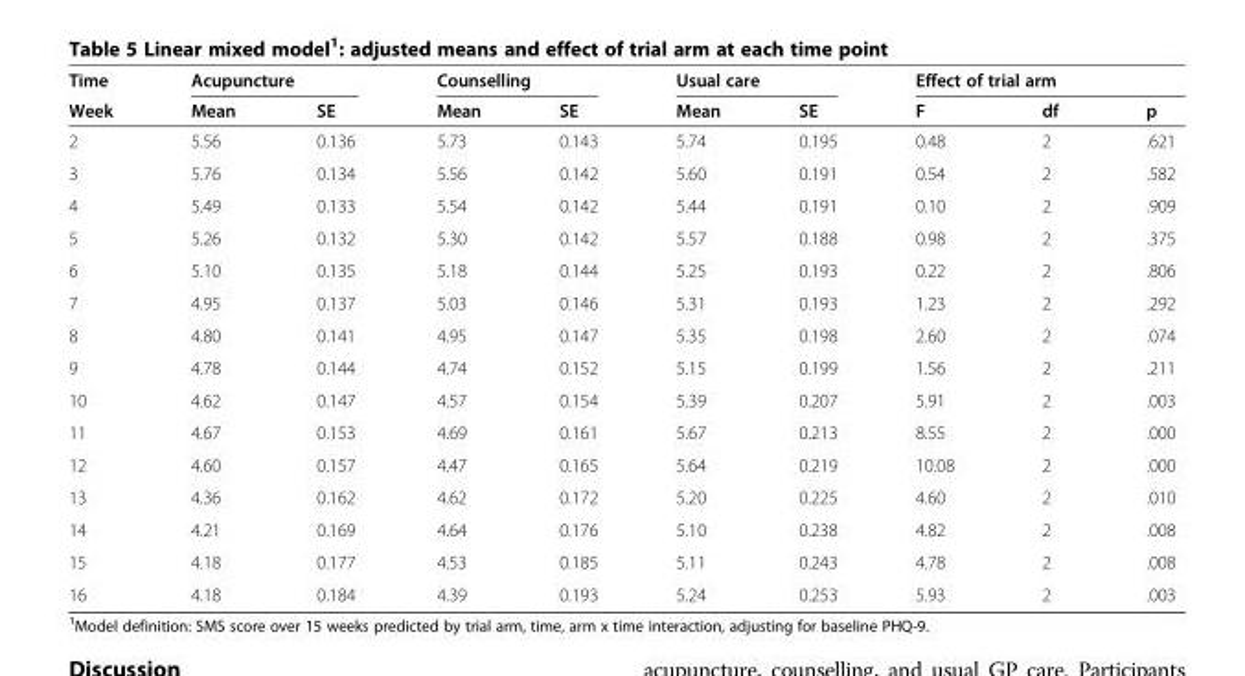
<table><thead><tr><td rowspan="2">Time Week</td><td colspan="2">Acupuncture</td><td colspan="2">Counselling</td><td colspan="2">Usual care</td><td colspan="3">Effect of trial arm</td></tr><tr><td>Mean</td><td>SE</td><td>Mean</td><td>SE</td><td>Mean</td><td>SE</td><td>F</td><td>df</td><td>p</td></tr></thead><tbody><tr><td>2</td><td>5.56</td><td>0.136</td><td>5.73</td><td>0.143</td><td>5.74</td><td>0.195</td><td>0.48</td><td>2</td><td>.621</td></tr><tr><td>3</td><td>5.76</td><td>0.134</td><td>5.56</td><td>0.142</td><td>5.60</td><td>0.191</td><td>0.54</td><td>2</td><td>.582</td></tr><tr><td>4</td><td>5.49</td><td>0.133</td><td>5.54</td><td>0.142</td><td>5.44</td><td>0.191</td><td>0.10</td><td>2</td><td>.909</td></tr><tr><td>5</td><td>5.26</td><td>0.132</td><td>5.30</td><td>0.142</td><td>5.57</td><td>0.188</td><td>0.98</td><td>2</td><td>.375</td></tr><tr><td>6</td><td>5.10</td><td>0.135</td><td>5.18</td><td>0.144</td><td>5.25</td><td>0.193</td><td>0.22</td><td>2</td><td>.806</td></tr><tr><td>7</td><td>4.95</td><td>0.137</td><td>5.03</td><td>0.146</td><td>5.31</td><td>0.193</td><td>1.23</td><td>2</td><td>.292</td></tr><tr><td>8</td><td>4.80</td><td>0.141</td><td>4.95</td><td>0.147</td><td>5.35</td><td>0.198</td><td>2.60</td><td>2</td><td>.074</td></tr><tr><td>9</td><td>4.78</td><td>0.144</td><td>4.74</td><td>0.152</td><td>5.15</td><td>0.199</td><td>1.56</td><td>2</td><td>.211</td></tr><tr><td>10</td><td>4.62</td><td>0.147</td><td>4.57</td><td>0.154</td><td>5.39</td><td>0.207</td><td>5.91</td><td>2</td><td>.003</td></tr><tr><td>11</td><td>4.67</td><td>0.153</td><td>4.69</td><td>0.161</td><td>5.67</td><td>0.213</td><td>8.55</td><td>2</td><td>.000</td></tr><tr><td>12</td><td>4.60</td><td>0.157</td><td>4.47</td><td>0.165</td><td>5.64</td><td>0.219</td><td>10.08</td><td>2</td><td>.000</td></tr><tr><td>13</td><td>4.36</td><td>0.162</td><td>4.62</td><td>0.172</td><td>5.20</td><td>0.225</td><td>4.60</td><td>2</td><td>.010</td></tr><tr><td>14</td><td>4.21</td><td>0.169</td><td>4.64</td><td>0.176</td><td>5.10</td><td>0.238</td><td>4.82</td><td>2</td><td>.008</td></tr><tr><td>15</td><td>4.18</td><td>0.177</td><td>4.53</td><td>0.185</td><td>5.11</td><td>0.243</td><td>4.78</td><td>2</td><td>.008</td></tr><tr><td>16</td><td>4.18</td><td>0.184</td><td>4.39</td><td>0.193</td><td>5.24</td><td>0.253</td><td>5.93</td><td>2</td><td>.003</td></tr></tbody></table>